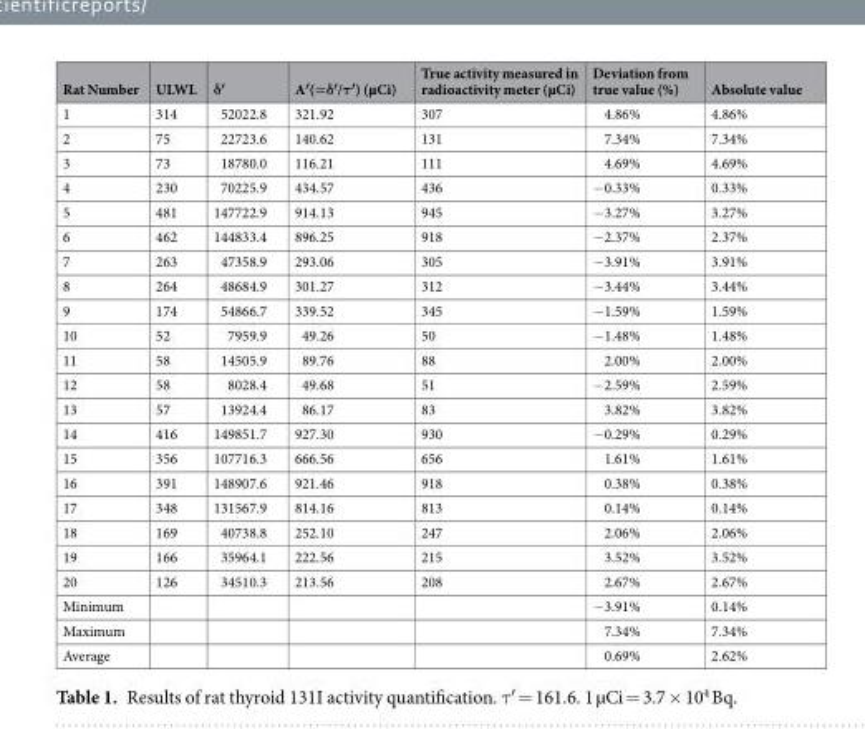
<table><thead><tr><td>Rat Number</td><td>ULWL</td><td>δ′</td><td>A′(=δ′/τ′) (µCi)</td><td>True activity measured in radioactivity meter (µCi)</td><td>Deviation from true value (%)</td><td>Absolute value</td></tr></thead><tbody><tr><td>1</td><td>314</td><td>52022.8</td><td>321.92</td><td>307</td><td>4.86%</td><td>4.86%</td></tr><tr><td>2</td><td>75</td><td>22723.6</td><td>140.62</td><td>131</td><td>7.34%</td><td>7.34%</td></tr><tr><td>3</td><td>73</td><td>18780.0</td><td>116.21</td><td>111</td><td>4.69%</td><td>4.69%</td></tr><tr><td>4</td><td>230</td><td>70225.9</td><td>434.57</td><td>436</td><td>−0.33%</td><td>0.33%</td></tr><tr><td>5</td><td>481</td><td>147722.9</td><td>914.13</td><td>945</td><td>−3.27%</td><td>3.27%</td></tr><tr><td>6</td><td>462</td><td>144833.4</td><td>896.25</td><td>918</td><td>−2.37%</td><td>2.37%</td></tr><tr><td>7</td><td>263</td><td>47358.9</td><td>293.06</td><td>305</td><td>−3.91%</td><td>3.91%</td></tr><tr><td>8</td><td>264</td><td>48684.9</td><td>301.27</td><td>312</td><td>−3.44%</td><td>3.44%</td></tr><tr><td>9</td><td>174</td><td>54866.7</td><td>339.52</td><td>345</td><td>−1.59%</td><td>1.59%</td></tr><tr><td>10</td><td>52</td><td>7959.9</td><td>49.26</td><td>50</td><td>−1.48%</td><td>1.48%</td></tr><tr><td>11</td><td>58</td><td>14505.9</td><td>89.76</td><td>88</td><td>2.00%</td><td>2.00%</td></tr><tr><td>12</td><td>58</td><td>8028.4</td><td>49.68</td><td>51</td><td>−2.59%</td><td>2.59%</td></tr><tr><td>13</td><td>57</td><td>13924.4</td><td>86.17</td><td>83</td><td>3.82%</td><td>3.82%</td></tr><tr><td>14</td><td>416</td><td>149851.7</td><td>927.30</td><td>930</td><td>−0.29%</td><td>0.29%</td></tr><tr><td>15</td><td>356</td><td>107716.3</td><td>666.56</td><td>656</td><td>1.61%</td><td>1.61%</td></tr><tr><td>16</td><td>391</td><td>148907.6</td><td>921.46</td><td>918</td><td>0.38%</td><td>0.38%</td></tr><tr><td>17</td><td>348</td><td>131567.9</td><td>814.16</td><td>813</td><td>0.14%</td><td>0.14%</td></tr><tr><td>18</td><td>169</td><td>40738.8</td><td>252.10</td><td>247</td><td>2.06%</td><td>2.06%</td></tr><tr><td>19</td><td>166</td><td>35964.1</td><td>222.56</td><td>215</td><td>3.52%</td><td>3.52%</td></tr><tr><td>20</td><td>126</td><td>34510.3</td><td>213.56</td><td>208</td><td>2.67%</td><td>2.67%</td></tr><tr><td>Minimum</td><td></td><td></td><td></td><td></td><td>−3.91%</td><td>0.14%</td></tr><tr><td>Maximum</td><td></td><td></td><td></td><td></td><td>7.34%</td><td>7.34%</td></tr><tr><td>Average</td><td></td><td></td><td></td><td></td><td>0.69%</td><td>2.62%</td></tr></tbody></table>